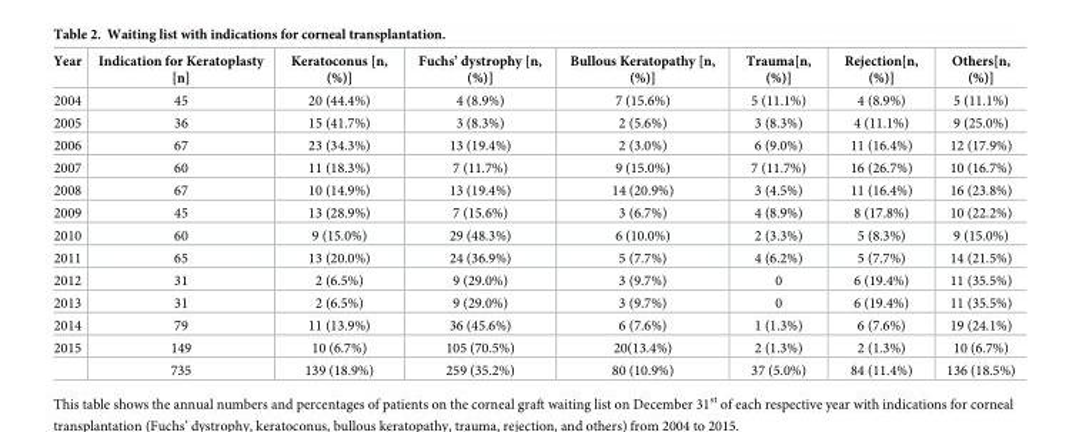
<table><thead><tr><td>Year</td><td>Indication for Keratoplasty [n]</td><td>Keratoconus [n, (%)]</td><td>Fuchs’ dystrophy [n, (%)]</td><td>Bullous Keratopathy [n, (%)]</td><td>Trauma[n, (%)]</td><td>Rejection[n, (%)]</td><td>Others[n, (%)]</td></tr></thead><tbody><tr><td>2004</td><td>45</td><td>20 (44.4%)</td><td>4 (8.9%)</td><td>7 (15.6%)</td><td>5 (11.1%)</td><td>4 (8.9%)</td><td>5 (11.1%)</td></tr><tr><td>2005</td><td>36</td><td>15 (41.7%)</td><td>3 (8.3%)</td><td>2 (5.6%)</td><td>3 (8.3%)</td><td>4 (11.1%)</td><td>9 (25.0%)</td></tr><tr><td>2006</td><td>67</td><td>23 (34.3%)</td><td>13 (19.4%)</td><td>2 (3.0%)</td><td>6 (9.0%)</td><td>11 (16.4%)</td><td>12 (17.9%)</td></tr><tr><td>2007</td><td>60</td><td>11 (18.3%)</td><td>7 (11.7%)</td><td>9 (15.0%)</td><td>7 (11.7%)</td><td>16 (26.7%)</td><td>10 (16.7%)</td></tr><tr><td>2008</td><td>67</td><td>10 (14.9%)</td><td>13 (19.4%)</td><td>14 (20.9%)</td><td>3 (4.5%)</td><td>11 (16.4%)</td><td>16 (23.8%)</td></tr><tr><td>2009</td><td>45</td><td>13 (28.9%)</td><td>7 (15.6%)</td><td>3 (6.7%)</td><td>4 (8.9%)</td><td>8 (17.8%)</td><td>10 (22.2%)</td></tr><tr><td>2010</td><td>60</td><td>9 (15.0%)</td><td>29 (48.3%)</td><td>6 (10.0%)</td><td>2 (3.3%)</td><td>5 (8.3%)</td><td>9 (15.0%)</td></tr><tr><td>2011</td><td>65</td><td>13 (20.0%)</td><td>24 (36.9%)</td><td>5 (7.7%)</td><td>4 (6.2%)</td><td>5 (7.7%)</td><td>14 (21.5%)</td></tr><tr><td>2012</td><td>31</td><td>2 (6.5%)</td><td>9 (29.0%)</td><td>3 (9.7%)</td><td>0</td><td>6 (19.4%)</td><td>11 (35.5%)</td></tr><tr><td>2013</td><td>31</td><td>2 (6.5%)</td><td>9 (29.0%)</td><td>3 (9.7%)</td><td>0</td><td>6 (19.4%)</td><td>11 (35.5%)</td></tr><tr><td>2014</td><td>79</td><td>11 (13.9%)</td><td>36 (45.6%)</td><td>6 (7.6%)</td><td>1 (1.3%)</td><td>6 (7.6%)</td><td>19 (24.1%)</td></tr><tr><td rowspan="2">2015</td><td>149</td><td>10 (6.7%)</td><td>105 (70.5%)</td><td>20(13.4%)</td><td>2 (1.3%)</td><td>2 (1.3%)</td><td>10 (6.7%)</td></tr><tr><td>735</td><td>139 (18.9%)</td><td>259 (35.2%)</td><td>80 (10.9%)</td><td>37 (5.0%)</td><td>84 (11.4%)</td><td>136 (18.5%)</td></tr></tbody></table>